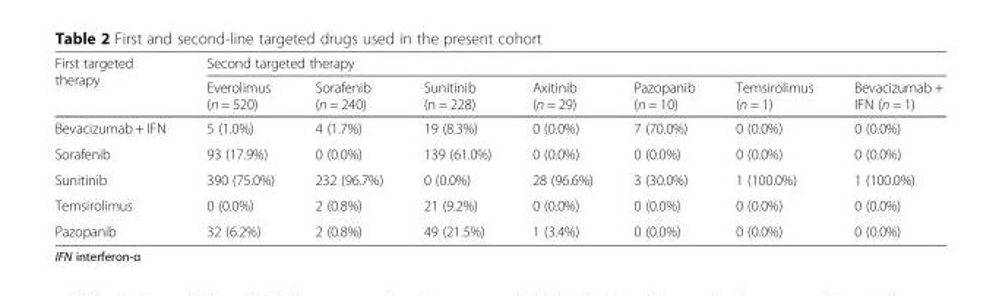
<table><thead><tr><td rowspan="2">First targeted therapy</td><td colspan="7">Second targeted therapy</td></tr><tr><td>Everolimus (n = 520)</td><td>Sorafenib (n = 240)</td><td>Sunitinib (n = 228)</td><td>Axitinib (n = 29)</td><td>Pazopanib (n = 10)</td><td>Temsirolimus (n = 1)</td><td>Bevacizumab + IFN (n = 1)</td></tr></thead><tbody><tr><td>Bevacizumab + IFN</td><td>5 (1.0%)</td><td>4 (1.7%)</td><td>19 (8.3%)</td><td>0 (0.0%)</td><td>7 (70.0%)</td><td>0 (0.0%)</td><td>0 (0.0%)</td></tr><tr><td>Sorafenib</td><td>93 (17.9%)</td><td>0 (0.0%)</td><td>139 (61.0%)</td><td>0 (0.0%)</td><td>0 (0.0%)</td><td>0 (0.0%)</td><td>0 (0.0%)</td></tr><tr><td>Sunitinib</td><td>390 (75.0%)</td><td>232 (96.7%)</td><td>0 (0.0%)</td><td>28 (96.6%)</td><td>3 (30.0%)</td><td>1 (100.0%)</td><td>1 (100.0%)</td></tr><tr><td>Temsirolimus</td><td>0 (0.0%)</td><td>2 (0.8%)</td><td>21 (9.2%)</td><td>0 (0.0%)</td><td>0 (0.0%)</td><td>0 (0.0%)</td><td>0 (0.0%)</td></tr><tr><td>Pazopanib</td><td>32 (6.2%)</td><td>2 (0.8%)</td><td>49 (21.5%)</td><td>1 (3.4%)</td><td>0 (0.0%)</td><td>0 (0.0%)</td><td>0 (0.0%)</td></tr></tbody></table>